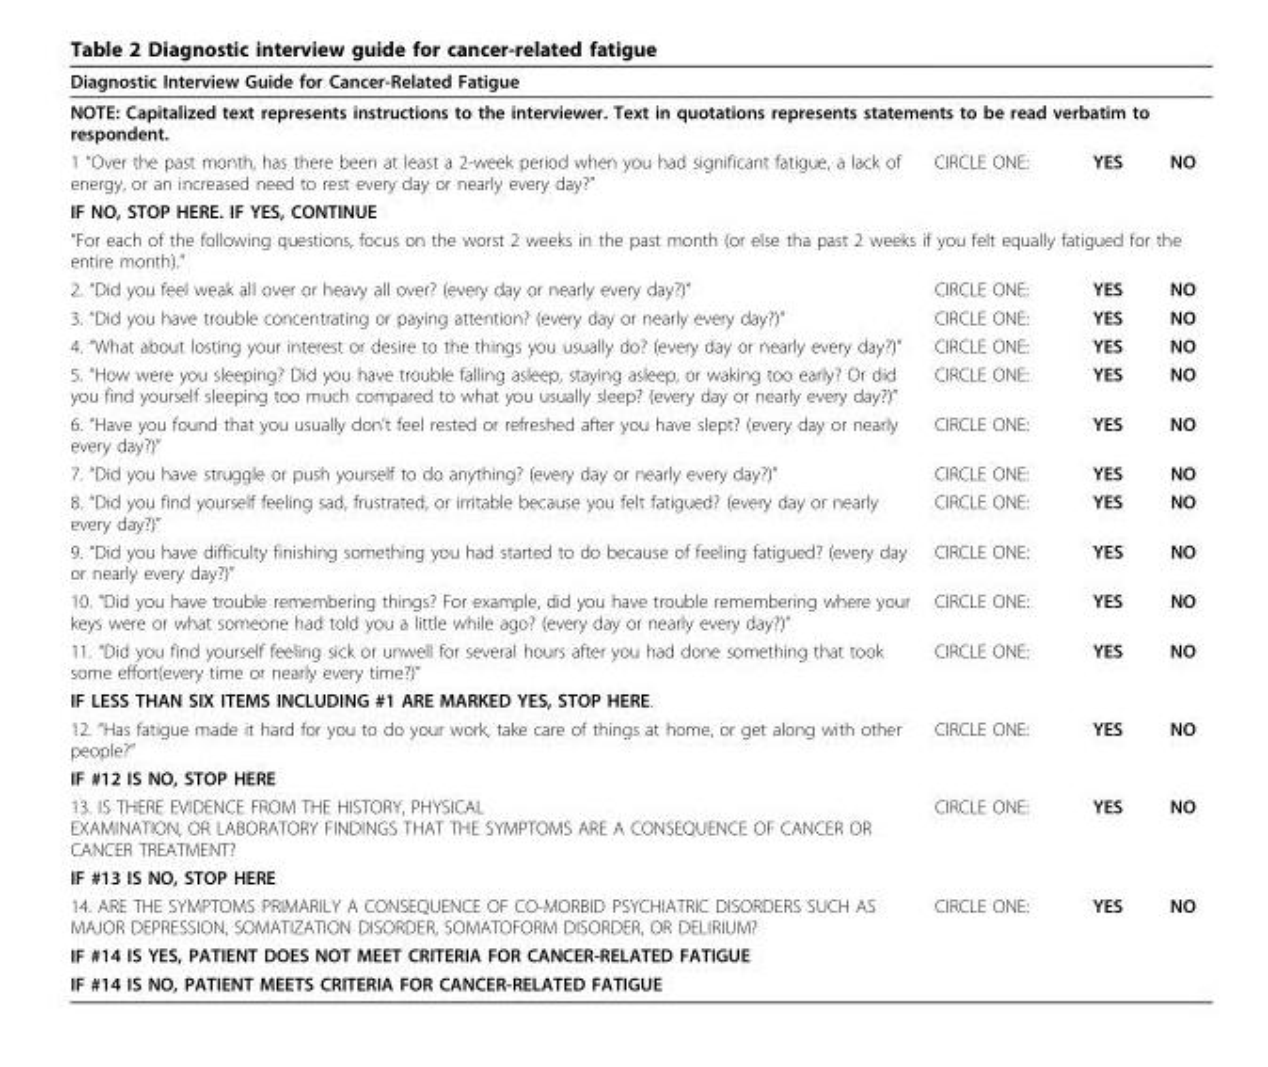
<table><thead><tr><td rowspan="2" colspan="4">Diagnostic Interview Guide for Cancer-Related Fatigue NOTE: Capitalized text represents instructions to the interviewer. Text in quotations represents statements to be read verbatim to respondent.</td></tr><tr></tr><tr><td>1 “Over the past month, has there been at least a 2-week period when you had significant fatigue, a lack of energy, or an increased need to rest every day or nearly every day?”</td><td>CIRCLE ONE:</td><td>YES</td><td>NO</td></tr></thead><tbody><tr><td colspan="4">IF NO, STOP HERE. IF YES, CONTINUE</td></tr><tr><td colspan="4">“For each of the following questions, focus on the worst 2 weeks in the past month (or else tha past 2 weeks if you felt equally fatigued for the entire month).”</td></tr><tr><td>2. “Did you feel weak all over or heavy all over? (every day or nearly every day?)”</td><td>CIRCLE ONE:</td><td>YES</td><td>NO</td></tr><tr><td>3. “Did you have trouble concentrating or paying attention? (every day or nearly every day?)”</td><td>CIRCLE ONE:</td><td>YES</td><td>NO</td></tr><tr><td>4. “What about losting your interest or desire to the things you usually do? (every day or nearly every day?)”</td><td>CIRCLE ONE:</td><td>YES</td><td>NO</td></tr><tr><td>5. “How were you sleeping? Did you have trouble falling asleep, staying asleep, or waking too early? Or did you find yourself sleeping too much compared to what you usually sleep? (every day or nearly every day?)”</td><td>CIRCLE ONE:</td><td>YES</td><td>NO</td></tr><tr><td>6. “Have you found that you usually don’t feel rested or refreshed after you have slept? (every day or nearly every day?)”</td><td>CIRCLE ONE:</td><td>YES</td><td>NO</td></tr><tr><td>7. “Did you have struggle or push yourself to do anything? (every day or nearly every day?)”</td><td>CIRCLE ONE:</td><td>YES</td><td>NO</td></tr><tr><td>8. “Did you find yourself feeling sad, frustrated, or irritable because you felt fatigued? (every day or nearly every day?)”</td><td>CIRCLE ONE:</td><td>YES</td><td>NO</td></tr><tr><td>9. “Did you have difficulty finishing something you had started to do because of feeling fatigued? (every day or nearly every day?)”</td><td>CIRCLE ONE:</td><td>YES</td><td>NO</td></tr><tr><td>10. “Did you have trouble remembering things? For example, did you have trouble remembering where your keys were or what someone had told you a little while ago? (every day or nearly every day?)”</td><td>CIRCLE ONE:</td><td>YES</td><td>NO</td></tr><tr><td>11. “Did you find yourself feeling sick or unwell for several hours after you had done something that took some effort(every time or nearly every time?)”</td><td>CIRCLE ONE:</td><td>YES</td><td>NO</td></tr><tr><td colspan="4">IF LESS THAN SIX ITEMS INCLUDING #1 ARE MARKED YES, STOP HERE.</td></tr><tr><td>12. “Has fatigue made it hard for you to do your work, take care of things at home, or get along with other people?”</td><td>CIRCLE ONE:</td><td>YES</td><td>NO</td></tr><tr><td colspan="4">IF #12 IS NO, STOP HERE</td></tr><tr><td>13. IS THERE EVIDENCE FROM THE HISTORY, PHYSICAL EXAMINATION, OR LABORATORY FINDINGS THAT THE SYMPTOMS ARE A CONSEQUENCE OF CANCER OR CANCER TREATMENT?</td><td>CIRCLE ONE:</td><td>YES</td><td>NO</td></tr><tr><td colspan="4">IF #13 IS NO, STOP HERE</td></tr><tr><td>14. ARE THE SYMPTOMS PRIMARILY A CONSEQUENCE OF CO-MORBID PSYCHIATRIC DISORDERS SUCH AS MAJOR DEPRESSION, SOMATIZATION DISORDER, SOMATOFORM DISORDER, OR DELIRIUM?</td><td>CIRCLE ONE:</td><td>YES</td><td>NO</td></tr><tr><td colspan="4">IF #14 IS YES, PATIENT DOES NOT MEET CRITERIA FOR CANCER-RELATED FATIGUE</td></tr><tr><td colspan="3">IF #14 IS NO, PATIENT MEETS CRITERIA FOR CANCER-RELATED FATIGUE</td><td></td></tr></tbody></table>